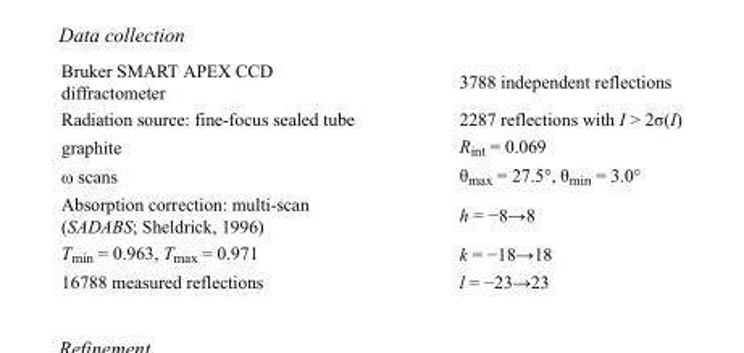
<table><tbody><tr><td>Bruker SMART APEX CCD diffractometer</td><td>3788 independent reflections</td></tr><tr><td>Radiation source: fine-focus sealed tube</td><td>2287 reflections with I &gt; 2σ(I)</td></tr><tr><td>graphite</td><td>R<sub>int</sub> = 0.069</td></tr><tr><td>ω scans</td><td>θ<sub>max</sub> = 27.5°, θ<sub>min</sub> = 3.0°</td></tr><tr><td>Absorption correction: multi-scan (SADABS; Sheldrick, 1996)</td><td>h = −8→8</td></tr><tr><td>T<sub>min</sub> = 0.963, T<sub>max</sub> = 0.971</td><td>k = −18→18</td></tr><tr><td>16788 measured reflections</td><td>l = −23→23</td></tr></tbody></table>